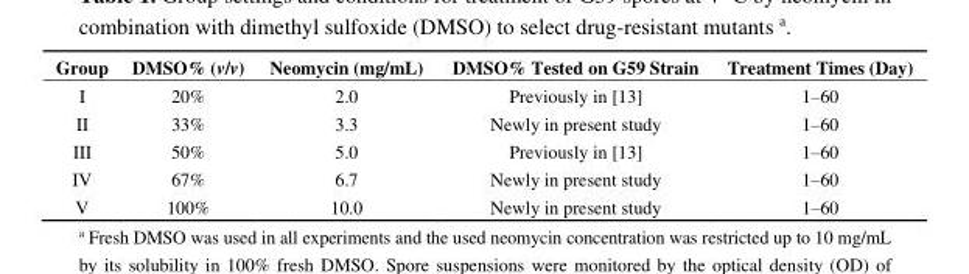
<table><thead><tr><td>Group</td><td>DMSO% (v/v)</td><td>Neomycin (mg/mL)</td><td>DMSO% Tested on G59 Strain</td><td>Treatment Times (Day)</td></tr></thead><tbody><tr><td>I</td><td>20%</td><td>2.0</td><td>Previously in [13]</td><td>1–60</td></tr><tr><td>II</td><td>33%</td><td>3.3</td><td>Newly in present study</td><td>1–60</td></tr><tr><td>III</td><td>50%</td><td>5.0</td><td>Previously in [13]</td><td>1–60</td></tr><tr><td>IV</td><td>67%</td><td>6.7</td><td>Newly in present study</td><td>1–60</td></tr><tr><td>V</td><td>100%</td><td>10.0</td><td>Newly in present study</td><td>1–60</td></tr></tbody></table>